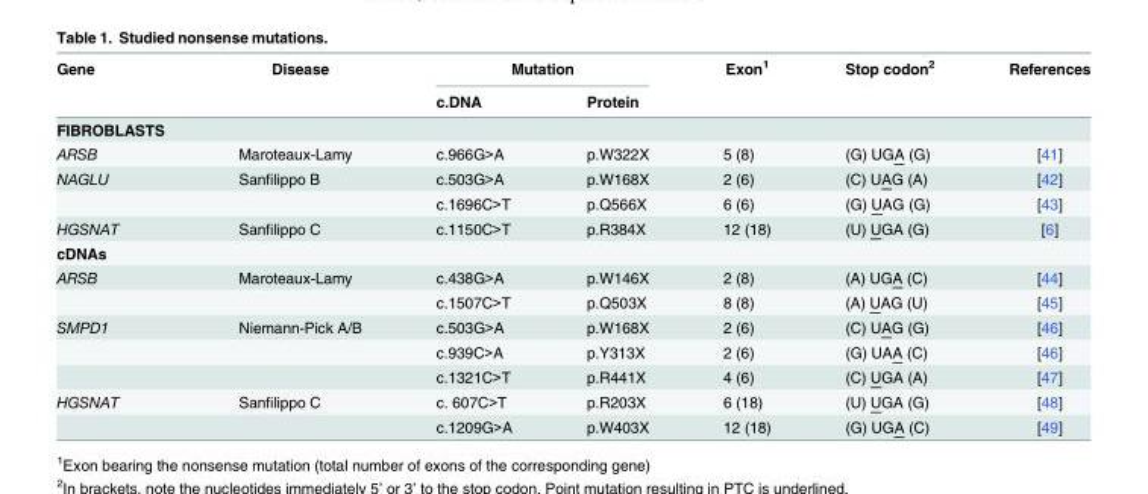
<table><thead><tr><td rowspan="2">Gene</td><td rowspan="2">Disease</td><td colspan="2">Mutation</td><td rowspan="2">Exon<sup>1</sup></td><td rowspan="2">Stop codon<sup>2</sup></td><td rowspan="2">References</td></tr><tr><td>c.DNA</td><td>Protein</td></tr></thead><tbody><tr><td colspan="7">FIBROBLASTS</td></tr><tr><td>ARSB</td><td>Maroteaux-Lamy</td><td>c.966G&gt;A</td><td>p.W322X</td><td>5 (8)</td><td>(G) UGA (G)</td><td>[41]</td></tr><tr><td rowspan="2">NAGLU</td><td>Sanfilippo B</td><td>c.503G&gt;A</td><td>p.W168X</td><td>2 (6)</td><td>(C) UAG (A)</td><td>[42]</td></tr><tr><td></td><td>c.1696C&gt;T</td><td>p.Q566X</td><td>6 (6)</td><td>(G) UAG (G)</td><td>[43]</td></tr><tr><td>HGSNAT</td><td>Sanfilippo C</td><td>c.1150C&gt;T</td><td>p.R384X</td><td>12 (18)</td><td>(U) UGA (G)</td><td>[6]</td></tr><tr><td colspan="7">cDNAs</td></tr><tr><td rowspan="2">ARSB</td><td>Maroteaux-Lamy</td><td>c.438G&gt;A</td><td>p.W146X</td><td>2 (8)</td><td>(A) UGA (C)</td><td>[44]</td></tr><tr><td></td><td>c.1507C&gt;T</td><td>p.Q503X</td><td>8 (8)</td><td>(A) UAG (U)</td><td>[45]</td></tr><tr><td rowspan="3">SMPD1</td><td>Niemann-Pick A/B</td><td>c.503G&gt;A</td><td>p.W168X</td><td>2 (6)</td><td>(C) UAG (G)</td><td>[46]</td></tr><tr><td></td><td>c.939C&gt;A</td><td>p.Y313X</td><td>2 (6)</td><td>(G) UAA (C)</td><td>[46]</td></tr><tr><td></td><td>c.1321C&gt;T</td><td>p.R441X</td><td>4 (6)</td><td>(C) UGA (A)</td><td>[47]</td></tr><tr><td rowspan="2">HGSNAT</td><td>Sanfilippo C</td><td>c. 607C&gt;T</td><td>p.R203X</td><td>6 (18)</td><td>(U) UGA (G)</td><td>[48]</td></tr><tr><td></td><td>c.1209G&gt;A</td><td>p.W403X</td><td>12 (18)</td><td>(G) UGA (C)</td><td>[49]</td></tr></tbody></table>